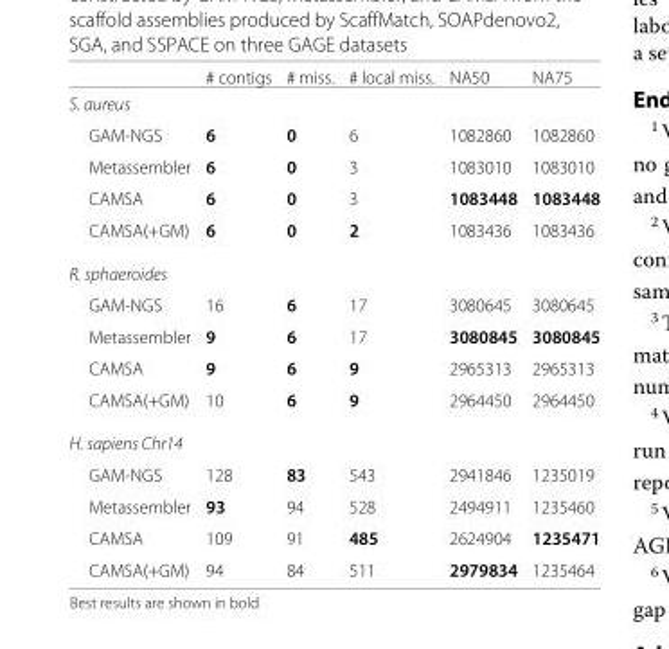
<table><thead><tr><td></td><td># contigs</td><td># miss.</td><td># local miss.</td><td>NA50</td><td>NA75</td></tr></thead><tbody><tr><td colspan="6">S. aureus</td></tr><tr><td>GAM-NGS</td><td>6</td><td>0</td><td>6</td><td>1082860</td><td>1082860</td></tr><tr><td>Metassembler</td><td>6</td><td>0</td><td>3</td><td>1083010</td><td>1083010</td></tr><tr><td>CAMSA</td><td>6</td><td>0</td><td>3</td><td>1083448</td><td>1083448</td></tr><tr><td>CAMSA(+GM)</td><td>6</td><td>0</td><td>2</td><td>1083436</td><td>1083436</td></tr><tr><td colspan="6">R. sphaeroides</td></tr><tr><td>GAM-NGS</td><td>16</td><td>6</td><td>17</td><td>3080645</td><td>3080645</td></tr><tr><td>Metassembler</td><td>9</td><td>6</td><td>17</td><td>3080845</td><td>3080845</td></tr><tr><td>CAMSA</td><td>9</td><td>6</td><td>9</td><td>2965313</td><td>2965313</td></tr><tr><td>CAMSA(+GM)</td><td>10</td><td>6</td><td>9</td><td>2964450</td><td>2964450</td></tr><tr><td colspan="6">H. sapiens Chr14</td></tr><tr><td>GAM-NGS</td><td>128</td><td>83</td><td>543</td><td>2941846</td><td>1235019</td></tr><tr><td>Metassembler</td><td>93</td><td>94</td><td>528</td><td>2494911</td><td>1235460</td></tr><tr><td>CAMSA</td><td>109</td><td>91</td><td>485</td><td>2624904</td><td>1235471</td></tr><tr><td>CAMSA(+GM)</td><td>94</td><td>84</td><td>511</td><td>2979834</td><td>1235464</td></tr></tbody></table>